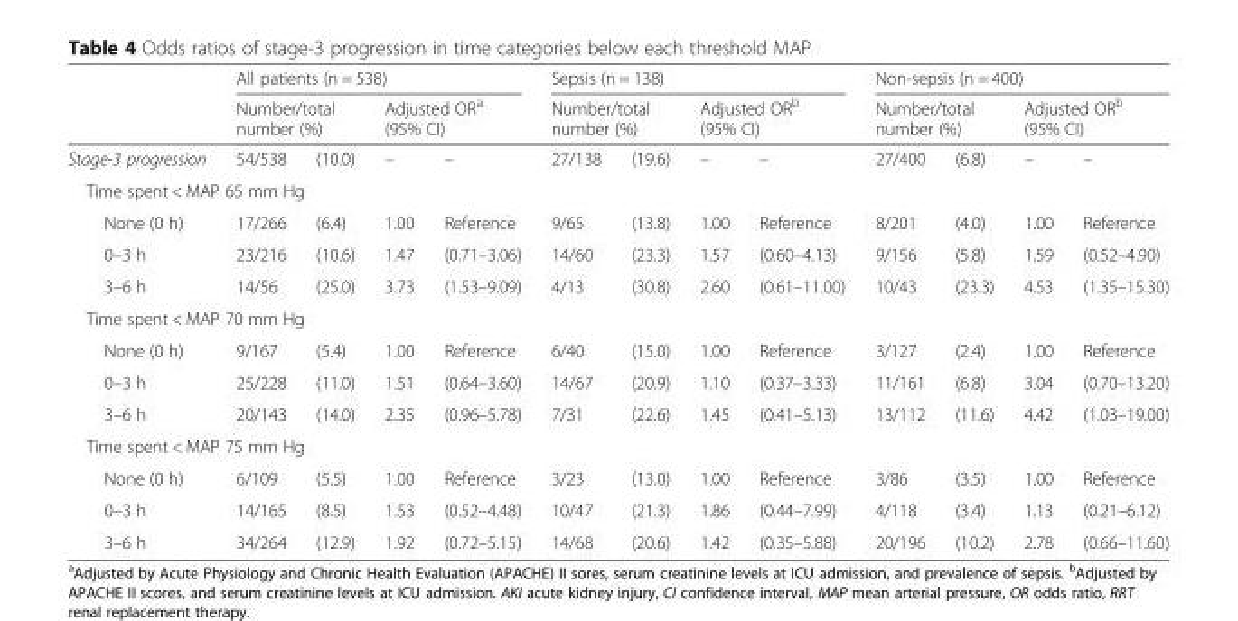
<table><thead><tr><td rowspan="3">Stage-3 progression</td><td colspan="4">All patients (n = 538)</td><td colspan="4">Sepsis (n = 138)</td><td colspan="4">Non-sepsis (n = 400)</td></tr><tr><td colspan="2">Number/total number (%)</td><td colspan="2">Adjusted OR<sup>a</sup> (95% CI)</td><td colspan="2">Number/total number (%)</td><td colspan="2">Adjusted OR<sup>b</sup> (95% CI)</td><td colspan="2">Number/total number (%)</td><td colspan="2">Adjusted OR<sup>b</sup> (95% CI)</td></tr><tr><td>54/538</td><td>(10.0)</td><td>–</td><td>–</td><td>27/138</td><td>(19.6)</td><td>–</td><td>–</td><td>27/400</td><td>(6.8)</td><td>–</td><td>–</td></tr></thead><tbody><tr><td colspan="13">Time spent &lt; MAP 65 mm Hg</td></tr><tr><td>None (0 h)</td><td>17/266</td><td>(6.4)</td><td>1.00</td><td>Reference</td><td>9/65</td><td>(13.8)</td><td>1.00</td><td>Reference</td><td>8/201</td><td>(4.0)</td><td>1.00</td><td>Reference</td></tr><tr><td>0–3 h</td><td>23/216</td><td>(10.6)</td><td>1.47</td><td>(0.71–3.06)</td><td>14/60</td><td>(23.3)</td><td>1.57</td><td>(0.60–4.13)</td><td>9/156</td><td>(5.8)</td><td>1.59</td><td>(0.52–4.90)</td></tr><tr><td>3–6 h</td><td>14/56</td><td>(25.0)</td><td>3.73</td><td>(1.53–9.09)</td><td>4/13</td><td>(30.8)</td><td>2.60</td><td>(0.61–11.00)</td><td>10/43</td><td>(23.3)</td><td>4.53</td><td>(1.35–15.30)</td></tr><tr><td colspan="13">Time spent &lt; MAP 70 mm Hg</td></tr><tr><td>None (0 h)</td><td>9/167</td><td>(5.4)</td><td>1.00</td><td>Reference</td><td>6/40</td><td>(15.0)</td><td>1.00</td><td>Reference</td><td>3/127</td><td>(2.4)</td><td>1.00</td><td>Reference</td></tr><tr><td>0–3 h</td><td>25/228</td><td>(11.0)</td><td>1.51</td><td>(0.64–3.60)</td><td>14/67</td><td>(20.9)</td><td>1.10</td><td>(0.37–3.33)</td><td>11/161</td><td>(6.8)</td><td>3.04</td><td>(0.70–13.20)</td></tr><tr><td>3–6 h</td><td>20/143</td><td>(14.0)</td><td>2.35</td><td>(0.96–5.78)</td><td>7/31</td><td>(22.6)</td><td>1.45</td><td>(0.41–5.13)</td><td>13/112</td><td>(11.6)</td><td>4.42</td><td>(1.03–19.00)</td></tr><tr><td colspan="13">Time spent &lt; MAP 75 mm Hg</td></tr><tr><td>None (0 h)</td><td>6/109</td><td>(5.5)</td><td>1.00</td><td>Reference</td><td>3/23</td><td>(13.0)</td><td>1.00</td><td>Reference</td><td>3/86</td><td>(3.5)</td><td>1.00</td><td>Reference</td></tr><tr><td>0–3 h</td><td>14/165</td><td>(8.5)</td><td>1.53</td><td>(0.52–4.48)</td><td>10/47</td><td>(21.3)</td><td>1.86</td><td>(0.44–7.99)</td><td>4/118</td><td>(3.4)</td><td>1.13</td><td>(0.21–6.12)</td></tr><tr><td>3–6 h</td><td>34/264</td><td>(12.9)</td><td>1.92</td><td>(0.72–5.15)</td><td>14/68</td><td>(20.6)</td><td>1.42</td><td>(0.35–5.88)</td><td>20/196</td><td>(10.2)</td><td>2.78</td><td>(0.66–11.60)</td></tr></tbody></table>